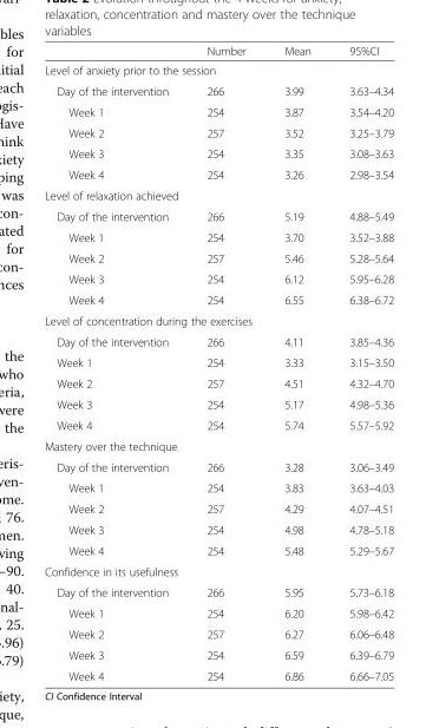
<table><thead><tr><td></td><td>Number</td><td>Mean</td><td>95%CI</td></tr></thead><tbody><tr><td colspan="4">Level of anxiety prior to the session</td></tr><tr><td>Day of the intervention</td><td>266</td><td>3.99</td><td>3.63–4.34</td></tr><tr><td>Week 1</td><td>254</td><td>3.87</td><td>3.54–4.20</td></tr><tr><td>Week 2</td><td>257</td><td>3.52</td><td>3.25–3.79</td></tr><tr><td>Week 3</td><td>254</td><td>3.35</td><td>3.08–3.63</td></tr><tr><td>Week 4</td><td>254</td><td>3.26</td><td>2.98–3.54</td></tr><tr><td colspan="4">Level of relaxation achieved</td></tr><tr><td>Day of the intervention</td><td>266</td><td>5.19</td><td>4.88–5.49</td></tr><tr><td>Week 1</td><td>254</td><td>3.70</td><td>3.52–3.88</td></tr><tr><td>Week 2</td><td>257</td><td>5.46</td><td>5.28–5.64</td></tr><tr><td>Week 3</td><td>254</td><td>6.12</td><td>5.95–6.28</td></tr><tr><td>Week 4</td><td>254</td><td>6.55</td><td>6.38–6.72</td></tr><tr><td colspan="4">Level of concentration during the exercises</td></tr><tr><td>Day of the intervention</td><td>266</td><td>4.11</td><td>3.85–4.36</td></tr><tr><td>Week 1</td><td>254</td><td>3.33</td><td>3.15–3.50</td></tr><tr><td>Week 2</td><td>257</td><td>4.51</td><td>4.32–4.70</td></tr><tr><td>Week 3</td><td>254</td><td>5.17</td><td>4.98–5.36</td></tr><tr><td>Week 4</td><td>254</td><td>5.74</td><td>5.57–5.92</td></tr><tr><td colspan="4">Mastery over the technique</td></tr><tr><td>Day of the intervention</td><td>266</td><td>3.28</td><td>3.06–3.49</td></tr><tr><td>Week 1</td><td>254</td><td>3.83</td><td>3.63–4.03</td></tr><tr><td>Week 2</td><td>257</td><td>4.29</td><td>4.07–4.51</td></tr><tr><td>Week 3</td><td>254</td><td>4.98</td><td>4.78–5.18</td></tr><tr><td>Week 4</td><td>254</td><td>5.48</td><td>5.29–5.67</td></tr><tr><td colspan="4">Confidence in its usefulness</td></tr><tr><td>Day of the intervention</td><td>266</td><td>5.95</td><td>5.73–6.18</td></tr><tr><td>Week 1</td><td>254</td><td>6.20</td><td>5.98–6.42</td></tr><tr><td>Week 2</td><td>257</td><td>6.27</td><td>6.06–6.48</td></tr><tr><td>Week 3</td><td>254</td><td>6.59</td><td>6.39–6.79</td></tr><tr><td>Week 4</td><td>254</td><td>6.86</td><td>6.66–7.05</td></tr></tbody></table>